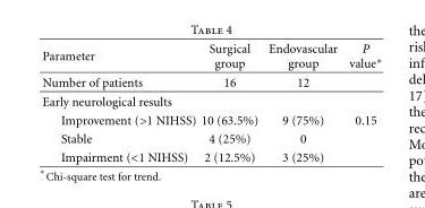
<table><thead><tr><td>Parameter</td><td>Surgical group</td><td>Endovascular group</td><td>P value∗</td></tr></thead><tbody><tr><td>Number of patients</td><td>16</td><td>12</td><td></td></tr><tr><td colspan="4">Early neurological results</td></tr><tr><td>Improvement (&gt;1 NIHSS)</td><td>10 (63.5%)</td><td>9 (75%)</td><td>0.15</td></tr><tr><td>Stable</td><td>4 (25%)</td><td>0</td><td></td></tr><tr><td>Impairment (&lt;1 NIHSS)</td><td>2 (12.5%)</td><td>3 (25%)</td><td></td></tr></tbody></table>